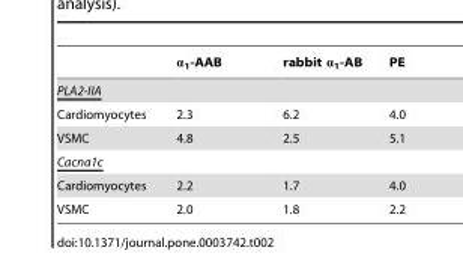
<table><thead><tr><td></td><td>α<sub>1</sub>-AAB</td><td>rabbit α<sub>1</sub>-AB</td><td>PE</td></tr></thead><tbody><tr><td colspan="4">PLA2-IIA</td></tr><tr><td>Cardiomyocytes</td><td>2.3</td><td>6.2</td><td>4.0</td></tr><tr><td>VSMC</td><td>4.8</td><td>2.5</td><td>5.1</td></tr><tr><td colspan="4">Cacna1c</td></tr><tr><td>Cardiomyocytes</td><td>2.2</td><td>1.7</td><td>4.0</td></tr><tr><td>VSMC</td><td>2.0</td><td>1.8</td><td>2.2</td></tr></tbody></table>